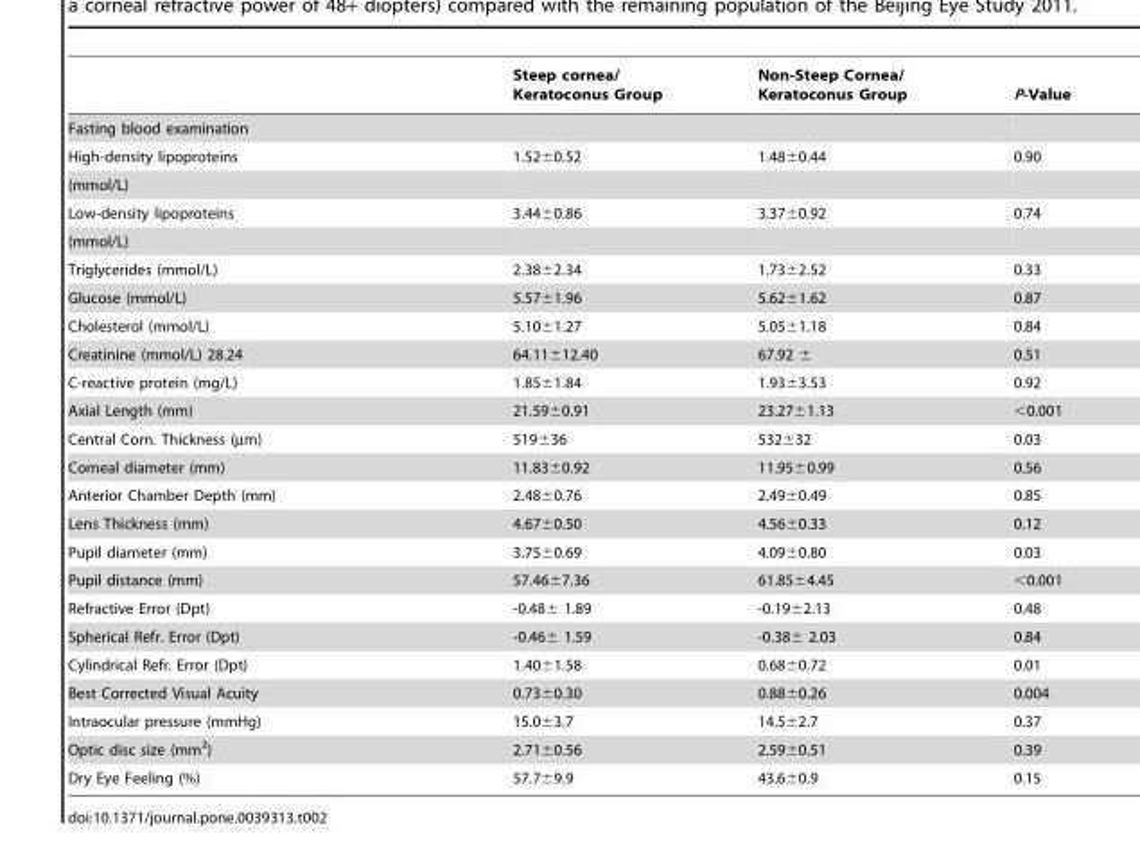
<table><thead><tr><td></td><td>Steep cornea/ Keratoconus Group</td><td>Non-Steep Cornea/ Keratoconus Group</td><td>P-Value</td></tr></thead><tbody><tr><td colspan="4">Fasting blood examination</td></tr><tr><td>High-density lipoproteins</td><td>1.52±0.52</td><td>1.48±0.44</td><td>0.90</td></tr><tr><td colspan="4">(mmol/L)</td></tr><tr><td>Low-density lipoproteins</td><td>3.44±0.86</td><td>3.37±0.92</td><td>0.74</td></tr><tr><td colspan="4">(mmol/L)</td></tr><tr><td>Triglycerides (mmol/L)</td><td>2.38±2.34</td><td>1.73±2.52</td><td>0.33</td></tr><tr><td>Glucose (mmol/L)</td><td>5.57±1.96</td><td>5.62±1.62</td><td>0.87</td></tr><tr><td>Cholesterol (mmol/L)</td><td>5.10±1.27</td><td>5.05±1.18</td><td>0.84</td></tr><tr><td>Creatinine (mmol/L) 28.24</td><td>64.11±12.40</td><td>67.92 ±</td><td>0.51</td></tr><tr><td>C-reactive protein (mg/L)</td><td>1.85±1.84</td><td>1.93±3.53</td><td>0.92</td></tr><tr><td>Axial Length (mm)</td><td>21.59±0.91</td><td>23.27±1.13</td><td>&lt;0.001</td></tr><tr><td>Central Corn. Thickness (µm)</td><td>519±36</td><td>532±32</td><td>0.03</td></tr><tr><td>Corneal diameter (mm)</td><td>11.83±0.92</td><td>11.95±0.99</td><td>0.56</td></tr><tr><td>Anterior Chamber Depth (mm)</td><td>2.48±0.76</td><td>2.49±0.49</td><td>0.85</td></tr><tr><td>Lens Thickness (mm)</td><td>4.67±0.50</td><td>4.56±0.33</td><td>0.12</td></tr><tr><td>Pupil diameter (mm)</td><td>3.75±0.69</td><td>4.09±0.80</td><td>0.03</td></tr><tr><td>Pupil distance (mm)</td><td>57.46±7.36</td><td>61.85±4.45</td><td>&lt;0.001</td></tr><tr><td>Refractive Error (Dpt)</td><td>-0.48± 1.89</td><td>-0.19±2.13</td><td>0.48</td></tr><tr><td>Spherical Refr. Error (Dpt)</td><td>-0.46± 1.59</td><td>-0.38± 2.03</td><td>0.84</td></tr><tr><td>Cylindrical Refr. Error (Dpt)</td><td>1.40±1.58</td><td>0.68±0.72</td><td>0.01</td></tr><tr><td>Best Corrected Visual Acuity</td><td>0.73±0.30</td><td>0.88±0.26</td><td>0.004</td></tr><tr><td>Intraocular pressure (mmHg)</td><td>15.0±3.7</td><td>14.5±2.7</td><td>0.37</td></tr><tr><td>Optic disc size (mm<sup>2</sup>)</td><td>2.71±0.56</td><td>2.59±0.51</td><td>0.39</td></tr><tr><td>Dry Eye Feeling (%)</td><td>57.7±9.9</td><td>43.6±0.9</td><td>0.15</td></tr></tbody></table>